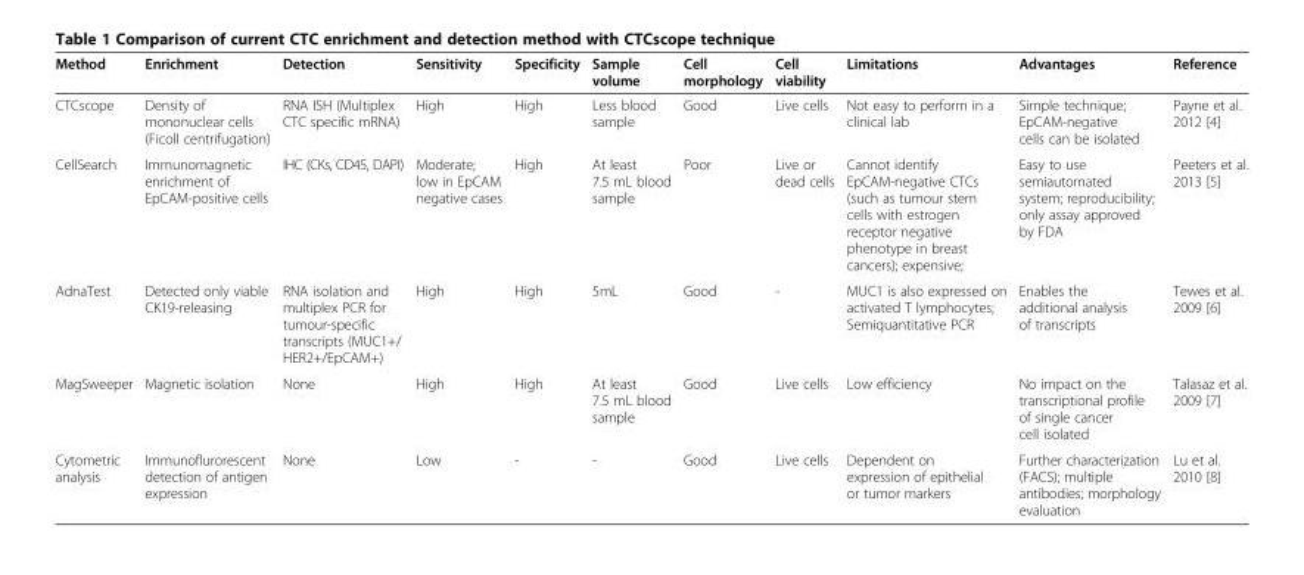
<table><thead><tr><td>Method</td><td>Enrichment</td><td>Detection</td><td>Sensitivity</td><td>Specificity</td><td>Sample volume</td><td>Cell morphology</td><td>Cell viability</td><td>Limitations</td><td>Advantages</td><td>Reference</td></tr></thead><tbody><tr><td>CTCscope</td><td>Density of mononuclear cells (Ficoll centrifugation)</td><td>RNA ISH (Multiplex CTC specific mRNA)</td><td>High</td><td>High</td><td>Less blood sample</td><td>Good</td><td>Live cells</td><td>Not easy to perform in a clinical lab</td><td>Simple technique; EpCAM-negative cells can be isolated</td><td>Payne et al. 2012 [4]</td></tr><tr><td>CellSearch</td><td>Immunomagnetic enrichment of EpCAM-positive cells</td><td>IHC (CKs, CD45, DAPI)</td><td>Moderate; low in EpCAM negative cases</td><td>High</td><td>At least 7.5 mL blood sample</td><td>Poor</td><td>Live or dead cells</td><td>Cannot identify EpCAM-negative CTCs (such as tumour stem cells with estrogen receptor negative phenotype in breast cancers); expensive;</td><td>Easy to use semiautomated system; reproducibility; only assay approved by FDA</td><td>Peeters et al. 2013 [5]</td></tr><tr><td>AdnaTest</td><td>Detected only viable CK19-releasing</td><td>RNA isolation and multiplex PCR for tumour-specific transcripts (MUC1+/ HER2+/EpCAM+)</td><td>High</td><td>High</td><td>5mL</td><td>Good</td><td>-</td><td>MUC1 is also expressed on activated T lymphocytes; Semiquantitative PCR</td><td>Enables the additional analysis of transcripts</td><td>Tewes et al. 2009 [6]</td></tr><tr><td>MagSweeper</td><td>Magnetic isolation</td><td>None</td><td>High</td><td>High</td><td>At least 7.5 mL blood sample</td><td>Good</td><td>Live cells</td><td>Low efficiency</td><td>No impact on the transcriptional profile of single cancer cell isolated</td><td>Talasaz et al. 2009 [7]</td></tr><tr><td>Cytometric analysis</td><td>Immunoflurorescent detection of antigen expression</td><td>None</td><td>Low</td><td>-</td><td>-</td><td>Good</td><td>Live cells</td><td>Dependent on expression of epithelial or tumor markers</td><td>Further characterization (FACS); multiple antibodies; morphology evaluation</td><td>Lu et al. 2010 [8]</td></tr></tbody></table>